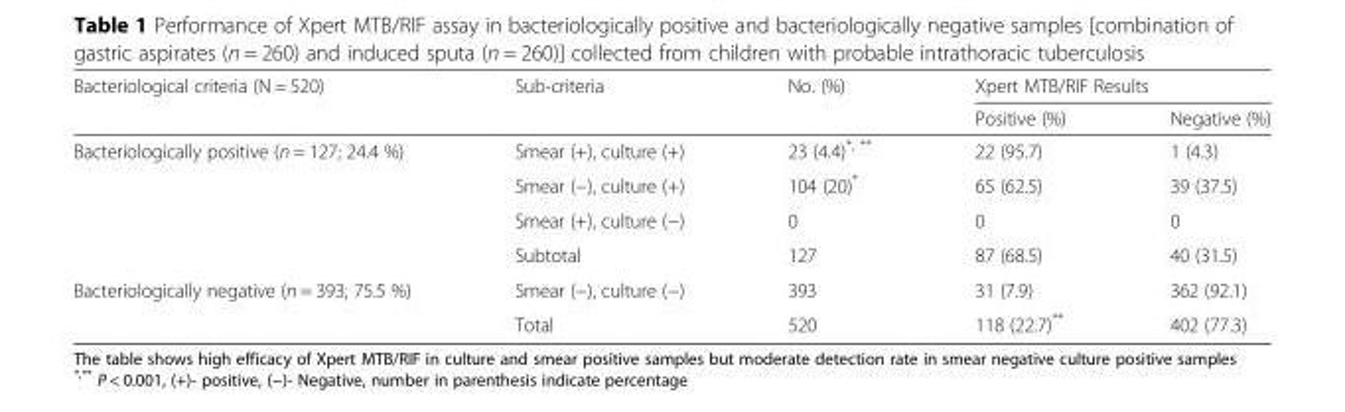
<table><thead><tr><td rowspan="2">Bacteriological criteria (N = 520)</td><td rowspan="2">Sub-criteria</td><td rowspan="2">No. (%)</td><td colspan="2">Xpert MTB/RIF Results</td></tr><tr><td>Positive (%)</td><td>Negative (%)</td></tr></thead><tbody><tr><td rowspan="4">Bacteriologically positive (n = 127; 24.4 %)</td><td>Smear (+), culture (+)</td><td>23 (4.4)<sup>*, **</sup></td><td>22 (95.7)</td><td>1 (4.3)</td></tr><tr><td>Smear (−), culture (+)</td><td>104 (20)*</td><td>65 (62.5)</td><td>39 (37.5)</td></tr><tr><td>Smear (+), culture (−)</td><td>0</td><td>0</td><td>0</td></tr><tr><td>Subtotal</td><td>127</td><td>87 (68.5)</td><td>40 (31.5)</td></tr><tr><td rowspan="2">Bacteriologically negative (n = 393; 75.5 %)</td><td>Smear (−), culture (−)</td><td>393</td><td>31 (7.9)</td><td>362 (92.1)</td></tr><tr><td>Total</td><td>520</td><td>118 (22.7)**</td><td>402 (77.3)</td></tr></tbody></table>